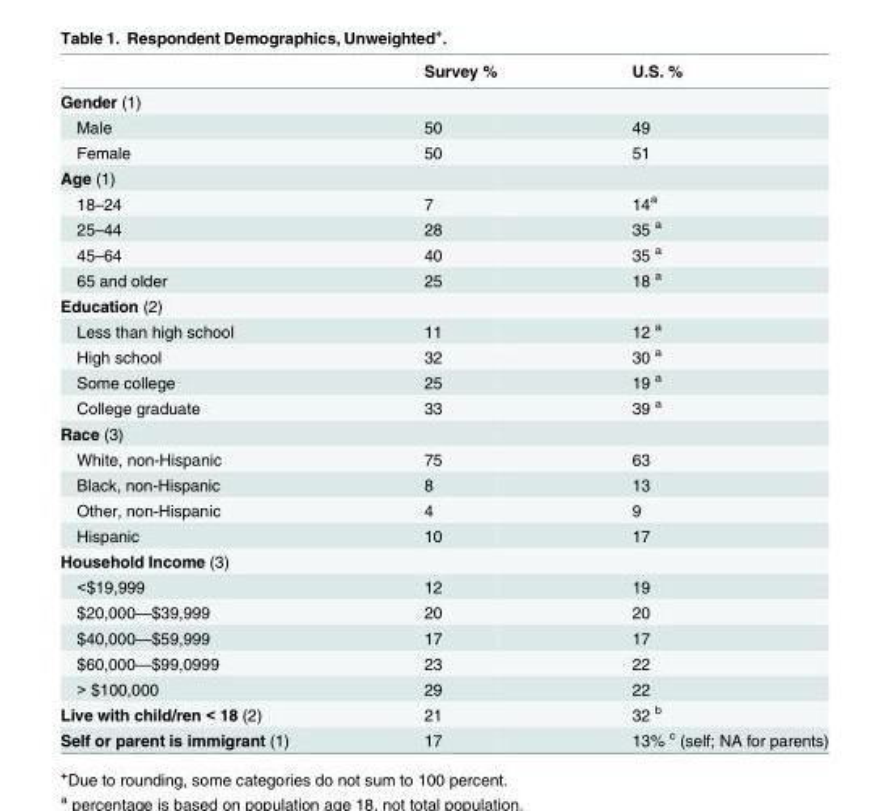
<table><thead><tr><td></td><td>Survey %</td><td>U.S. %</td></tr></thead><tbody><tr><td colspan="3">Gender (1)</td></tr><tr><td>Male</td><td>50</td><td>49</td></tr><tr><td>Female</td><td>50</td><td>51</td></tr><tr><td colspan="3">Age (1)</td></tr><tr><td>18–24</td><td>7</td><td>14<sup>a</sup></td></tr><tr><td>25–44</td><td>28</td><td>35 <sup>a</sup></td></tr><tr><td>45–64</td><td>40</td><td>35 <sup>a</sup></td></tr><tr><td>65 and older</td><td>25</td><td>18 <sup>a</sup></td></tr><tr><td colspan="3">Education (2)</td></tr><tr><td>Less than high school</td><td>11</td><td>12 <sup>a</sup></td></tr><tr><td>High school</td><td>32</td><td>30 <sup>a</sup></td></tr><tr><td>Some college</td><td>25</td><td>19 <sup>a</sup></td></tr><tr><td>College graduate</td><td>33</td><td>39 <sup>a</sup></td></tr><tr><td colspan="3">Race (3)</td></tr><tr><td>White, non-Hispanic</td><td>75</td><td>63</td></tr><tr><td>Black, non-Hispanic</td><td>8</td><td>13</td></tr><tr><td>Other, non-Hispanic</td><td>4</td><td>9</td></tr><tr><td>Hispanic</td><td>10</td><td>17</td></tr><tr><td colspan="3">Household Income (3)</td></tr><tr><td>&lt;$19,999</td><td>12</td><td>19</td></tr><tr><td>$20,000—$39,999</td><td>20</td><td>20</td></tr><tr><td>$40,000—$59,999</td><td>17</td><td>17</td></tr><tr><td>$60,000—$99,0999</td><td>23</td><td>22</td></tr><tr><td>&gt; $100,000</td><td>29</td><td>22</td></tr><tr><td>Live with child/ren &lt; 18 (2)</td><td>21</td><td>32 <sup>b</sup></td></tr><tr><td>Self or parent is immigrant (1)</td><td>17</td><td>13% <sup>c</sup> (self; NA for parents)</td></tr></tbody></table>